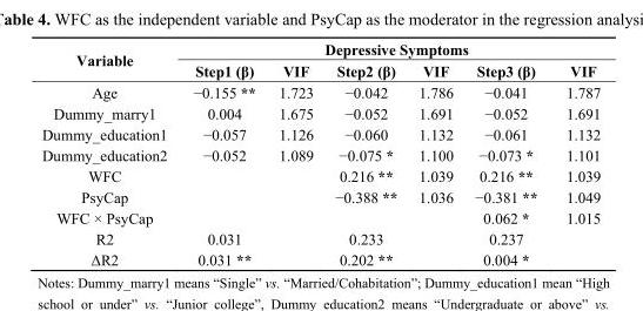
<table><thead><tr><td rowspan="2">Variable</td><td colspan="6">Depressive Symptoms</td></tr><tr><td>Step1 (β)</td><td>VIF</td><td>Step2 (β)</td><td>VIF</td><td>Step3 (β)</td><td>VIF</td></tr></thead><tbody><tr><td>Age</td><td>−0.155 **</td><td>1.723</td><td>−0.042</td><td>1.786</td><td>−0.041</td><td>1.787</td></tr><tr><td>Dummy_marry1</td><td>0.004</td><td>1.675</td><td>−0.052</td><td>1.691</td><td>−0.052</td><td>1.691</td></tr><tr><td>Dummy_education1</td><td>−0.057</td><td>1.126</td><td>−0.060</td><td>1.132</td><td>−0.061</td><td>1.132</td></tr><tr><td>Dummy_education2</td><td>−0.052</td><td>1.089</td><td>−0.075 *</td><td>1.100</td><td>−0.073 *</td><td>1.101</td></tr><tr><td>WFC</td><td></td><td></td><td>0.216 **</td><td>1.039</td><td>0.216 **</td><td>1.039</td></tr><tr><td>PsyCap</td><td></td><td></td><td>−0.388 **</td><td>1.036</td><td>−0.381 **</td><td>1.049</td></tr><tr><td>WFC × PsyCap</td><td></td><td></td><td></td><td></td><td>0.062 *</td><td>1.015</td></tr><tr><td>R2</td><td>0.031</td><td></td><td>0.233</td><td></td><td>0.237</td><td></td></tr><tr><td>ΔR2</td><td>0.031 **</td><td></td><td>0.202 **</td><td></td><td>0.004 *</td><td></td></tr></tbody></table>